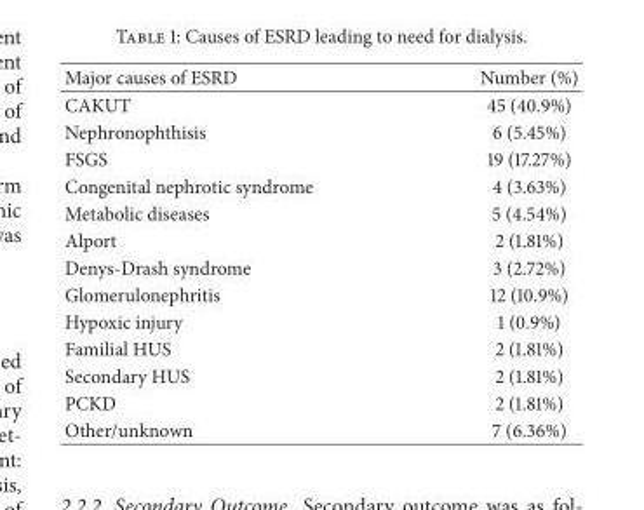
<table><thead><tr><td>Major causes of ESRD</td><td>Number (%)</td></tr></thead><tbody><tr><td>CAKUT</td><td>45 (40.9%)</td></tr><tr><td>Nephronophthisis</td><td>6 (5.45%)</td></tr><tr><td>FSGS</td><td>19 (17.27%)</td></tr><tr><td>Congenital nephrotic syndrome</td><td>4 (3.63%)</td></tr><tr><td>Metabolic diseases</td><td>5 (4.54%)</td></tr><tr><td>Alport</td><td>2 (1.81%)</td></tr><tr><td>Denys-Drash syndrome</td><td>3 (2.72%)</td></tr><tr><td>Glomerulonephritis</td><td>12 (10.9%)</td></tr><tr><td>Hypoxic injury</td><td>1 (0.9%)</td></tr><tr><td>Familial HUS</td><td>2 (1.81%)</td></tr><tr><td>Secondary HUS</td><td>2 (1.81%)</td></tr><tr><td>PCKD</td><td>2 (1.81%)</td></tr><tr><td>Other/unknown</td><td>7 (6.36%)</td></tr></tbody></table>